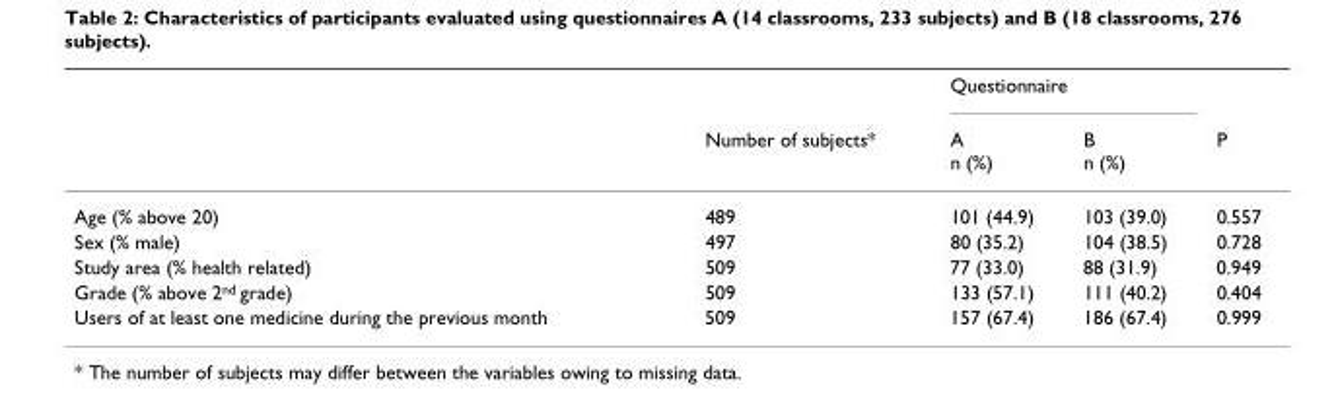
<table><thead><tr><td rowspan="2"></td><td rowspan="2">Number of subjects*</td><td colspan="2">Questionnaire</td><td rowspan="2">P</td></tr><tr><td>A n (%)</td><td>B n (%)</td></tr></thead><tbody><tr><td>Age (% above 20)</td><td>489</td><td>101 (44.9)</td><td>103 (39.0)</td><td>0.557</td></tr><tr><td>Sex (% male)</td><td>497</td><td>80 (35.2)</td><td>104 (38.5)</td><td>0.728</td></tr><tr><td>Study area (% health related)</td><td>509</td><td>77 (33.0)</td><td>88 (31.9)</td><td>0.949</td></tr><tr><td>Grade (% above 2<sup>nd</sup> grade)</td><td>509</td><td>133 (57.1)</td><td>111 (40.2)</td><td>0.404</td></tr><tr><td>Users of at least one medicine during the previous month</td><td>509</td><td>157 (67.4)</td><td>186 (67.4)</td><td>0.999</td></tr></tbody></table>